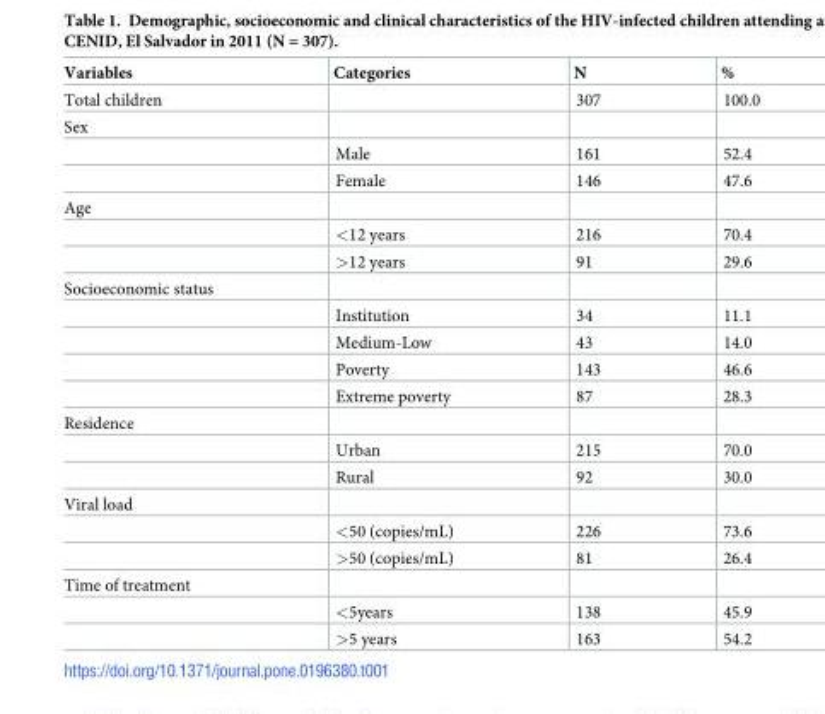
<table><thead><tr><td>Variables</td><td>Categories</td><td>N</td><td>%</td></tr></thead><tbody><tr><td>Total children</td><td></td><td>307</td><td>100.0</td></tr><tr><td colspan="4">Sex</td></tr><tr><td></td><td>Male</td><td>161</td><td>52.4</td></tr><tr><td></td><td>Female</td><td>146</td><td>47.6</td></tr><tr><td colspan="4">Age</td></tr><tr><td></td><td>&lt;12 years</td><td>216</td><td>70.4</td></tr><tr><td></td><td>&gt;12 years</td><td>91</td><td>29.6</td></tr><tr><td colspan="4">Socioeconomic status</td></tr><tr><td></td><td>Institution</td><td>34</td><td>11.1</td></tr><tr><td></td><td>Medium-Low</td><td>43</td><td>14.0</td></tr><tr><td></td><td>Poverty</td><td>143</td><td>46.6</td></tr><tr><td></td><td>Extreme poverty</td><td>87</td><td>28.3</td></tr><tr><td colspan="4">Residence</td></tr><tr><td></td><td>Urban</td><td>215</td><td>70.0</td></tr><tr><td></td><td>Rural</td><td>92</td><td>30.0</td></tr><tr><td colspan="4">Viral load</td></tr><tr><td></td><td>&lt;50 (copies/mL)</td><td>226</td><td>73.6</td></tr><tr><td></td><td>&gt;50 (copies/mL)</td><td>81</td><td>26.4</td></tr><tr><td colspan="4">Time of treatment</td></tr><tr><td></td><td>&lt;5years</td><td>138</td><td>45.9</td></tr><tr><td></td><td>&gt;5 years</td><td>163</td><td>54.2</td></tr></tbody></table>